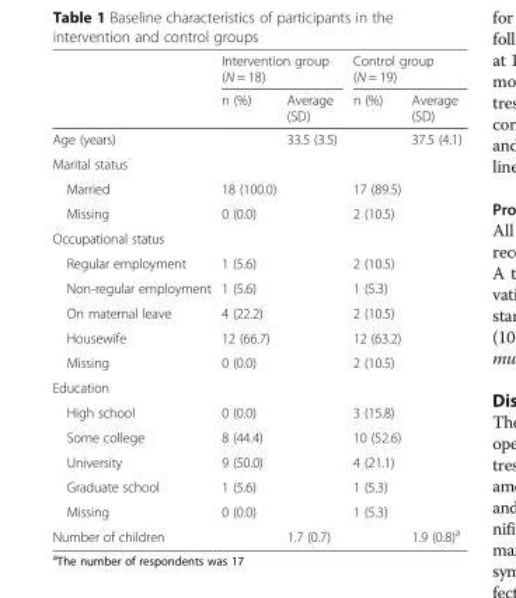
<table><thead><tr><td rowspan="2"></td><td colspan="2">Intervention group (N = 18)</td><td colspan="2">Control group (N = 19)</td></tr><tr><td>n (%)</td><td>Average (SD)</td><td>n (%)</td><td>Average (SD)</td></tr></thead><tbody><tr><td>Age (years)</td><td></td><td>33.5 (3.5)</td><td></td><td>37.5 (4.1)</td></tr><tr><td colspan="5">Marital status</td></tr><tr><td>Married</td><td>18 (100.0)</td><td></td><td>17 (89.5)</td><td></td></tr><tr><td>Missing</td><td>0 (0.0)</td><td></td><td>2 (10.5)</td><td></td></tr><tr><td colspan="5">Occupational status</td></tr><tr><td>Regular employment</td><td>1 (5.6)</td><td></td><td>2 (10.5)</td><td></td></tr><tr><td>Non-regular employment</td><td>1 (5.6)</td><td></td><td>1 (5.3)</td><td></td></tr><tr><td>On maternal leave</td><td>4 (22.2)</td><td></td><td>2 (10.5)</td><td></td></tr><tr><td>Housewife</td><td>12 (66.7)</td><td></td><td>12 (63.2)</td><td></td></tr><tr><td>Missing</td><td>0 (0.0)</td><td></td><td>2 (10.5)</td><td></td></tr><tr><td colspan="5">Education</td></tr><tr><td>High school</td><td>0 (0.0)</td><td></td><td>3 (15.8)</td><td></td></tr><tr><td>Some college</td><td>8 (44.4)</td><td></td><td>10 (52.6)</td><td></td></tr><tr><td>University</td><td>9 (50.0)</td><td></td><td>4 (21.1)</td><td></td></tr><tr><td>Graduate school</td><td>1 (5.6)</td><td></td><td>1 (5.3)</td><td></td></tr><tr><td>Missing</td><td>0 (0.0)</td><td></td><td>1 (5.3)</td><td></td></tr><tr><td>Number of children</td><td></td><td>1.7 (0.7)</td><td></td><td>1.9 (0.8)<sup>a</sup></td></tr></tbody></table>